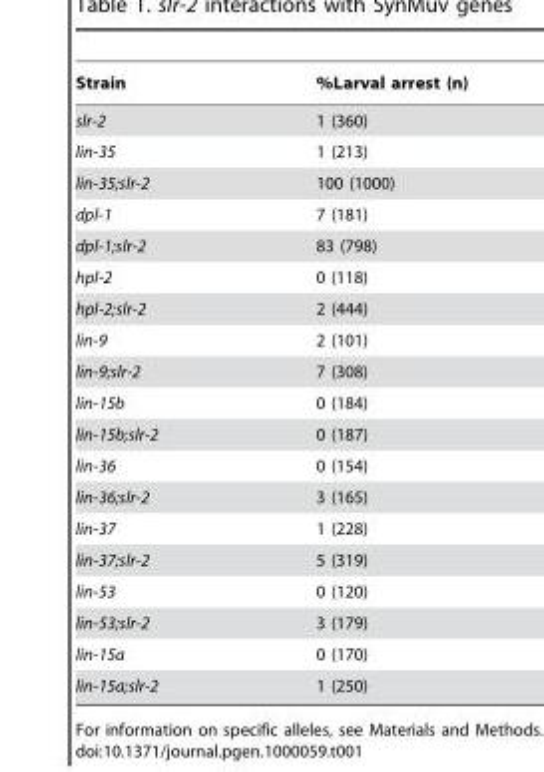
<table><thead><tr><td>Strain</td><td>%Larval arrest (n)</td></tr></thead><tbody><tr><td>slr-2</td><td>1 (360)</td></tr><tr><td>lin-35</td><td>1 (213)</td></tr><tr><td>lin-35;slr-2</td><td>100 (1000)</td></tr><tr><td>dpl-1</td><td>7 (181)</td></tr><tr><td>dpl-1;slr-2</td><td>83 (798)</td></tr><tr><td>hpl-2</td><td>0 (118)</td></tr><tr><td>hpl-2;slr-2</td><td>2 (444)</td></tr><tr><td>lin-9</td><td>2 (101)</td></tr><tr><td>lin-9;slr-2</td><td>7 (308)</td></tr><tr><td>lin-15b</td><td>0 (184)</td></tr><tr><td>lin-15b;slr-2</td><td>0 (187)</td></tr><tr><td>lin-36</td><td>0 (154)</td></tr><tr><td>lin-36;slr-2</td><td>3 (165)</td></tr><tr><td>lin-37</td><td>1 (228)</td></tr><tr><td>lin-37;slr-2</td><td>5 (319)</td></tr><tr><td>lin-53</td><td>0 (120)</td></tr><tr><td>lin-53;slr-2</td><td>3 (179)</td></tr><tr><td>lin-15a</td><td>0 (170)</td></tr><tr><td>lin-15a;slr-2</td><td>1 (250)</td></tr></tbody></table>